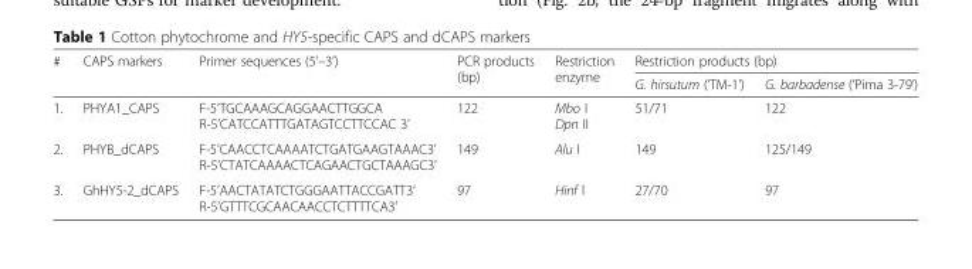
<table><thead><tr><td rowspan="2">#</td><td rowspan="2">CAPS markers</td><td rowspan="2">Primer sequences (5’–3’)</td><td rowspan="2">PCR products (bp)</td><td rowspan="2">Restriction enzyme</td><td colspan="2">Restriction products (bp)</td></tr><tr><td>G. hirsutum (‘TM-1’)</td><td>G. barbadense (‘Pima 3-79’)</td></tr></thead><tbody><tr><td>1.</td><td>PHYA1_CAPS</td><td>F-5’TGCAAAGCAGGAACTTGGCA R-5’CATCCATTTGATAGTCCTTCCAC 3’</td><td>122</td><td>Mbo I Dpn II</td><td>51/71</td><td>122</td></tr><tr><td>2.</td><td>PHYB_dCAPS</td><td>F-5’CAACCTCAAAATCTGATGAAGTAAAC3’ R-5’CTATCAAAACTCAGAACTGCTAAAGC3’</td><td>149</td><td>Alu I</td><td>149</td><td>125/149</td></tr><tr><td>3.</td><td>GhHY5-2_dCAPS</td><td>F-5’AACTATATCTGGGAATTACCGATT3’ R-5’GTTTCGCAACAACCTCTTTTCA3’</td><td>97</td><td>Hinf I</td><td>27/70</td><td>97</td></tr></tbody></table>